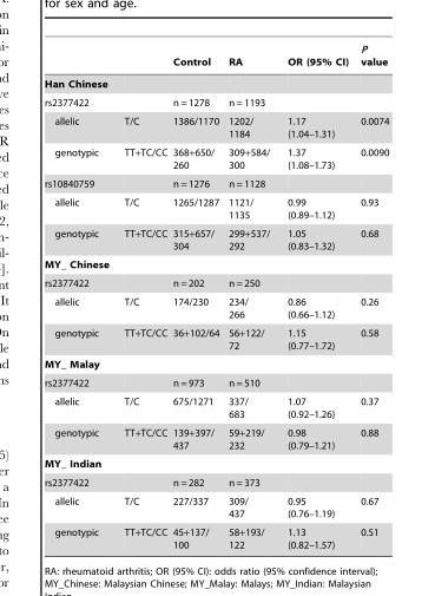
<table><thead><tr><td></td><td></td><td>Control</td><td>RA</td><td>OR (95% CI)</td><td>P value</td></tr></thead><tbody><tr><td colspan="6">Han Chinese</td></tr><tr><td>rs2377422</td><td></td><td>n = 1278</td><td>n = 1193</td><td></td><td></td></tr><tr><td>allelic</td><td>T/C</td><td>1386/1170</td><td>1202/ 1184</td><td>1.17 (1.04–1.31)</td><td>0.0074</td></tr><tr><td>genotypic</td><td>TT+TC/CC</td><td>368+650/ 260</td><td>309+584/ 300</td><td>1.37 (1.08–1.73)</td><td>0.0090</td></tr><tr><td>rs10840759</td><td></td><td>n = 1276</td><td>n = 1128</td><td></td><td></td></tr><tr><td>allelic</td><td>T/C</td><td>1265/1287</td><td>1121/ 1135</td><td>0.99 (0.89–1.12)</td><td>0.93</td></tr><tr><td>genotypic</td><td>TT+TC/CC</td><td>315+657/ 304</td><td>299+537/ 292</td><td>1.05 (0.83–1.32)</td><td>0.68</td></tr><tr><td colspan="6">MY_ Chinese</td></tr><tr><td>rs2377422</td><td></td><td>n = 202</td><td>n = 250</td><td></td><td></td></tr><tr><td>allelic</td><td>T/C</td><td>174/230</td><td>234/ 266</td><td>0.86 (0.66–1.12)</td><td>0.26</td></tr><tr><td>genotypic</td><td>TT+TC/CC</td><td>36+102/64</td><td>56+122/ 72</td><td>1.15 (0.77–1.72)</td><td>0.58</td></tr><tr><td colspan="6">MY_ Malay</td></tr><tr><td>rs2377422</td><td></td><td>n = 973</td><td>n = 510</td><td></td><td></td></tr><tr><td>allelic</td><td>T/C</td><td>675/1271</td><td>337/ 683</td><td>1.07 (0.92–1.26)</td><td>0.37</td></tr><tr><td>genotypic</td><td>TT+TC/CC</td><td>139+397/ 437</td><td>59+219/ 232</td><td>0.98 (0.79–1.21)</td><td>0.88</td></tr><tr><td colspan="6">MY_ Indian</td></tr><tr><td>rs2377422</td><td></td><td>n = 282</td><td>n = 373</td><td></td><td></td></tr><tr><td>allelic</td><td>T/C</td><td>227/337</td><td>309/ 437</td><td>0.95 (0.76–1.19)</td><td>0.67</td></tr><tr><td>genotypic</td><td>TT+TC/CC</td><td>45+137/ 100</td><td>58+193/ 122</td><td>1.13 (0.82–1.57)</td><td>0.51</td></tr></tbody></table>